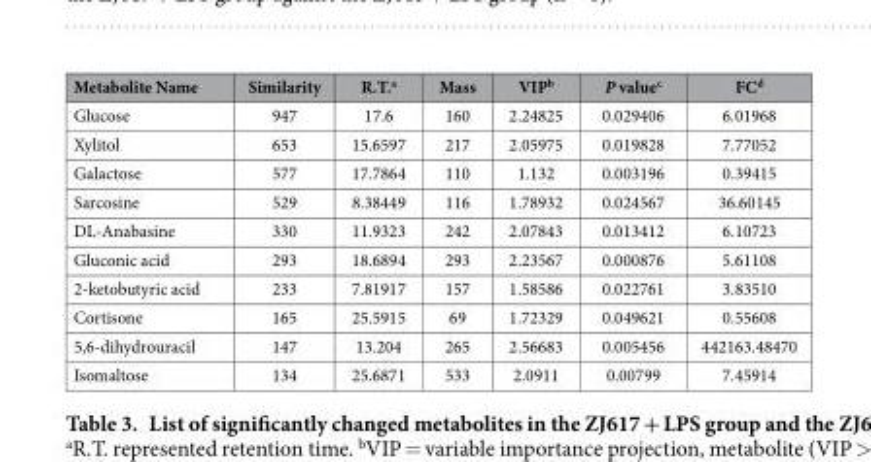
<table><thead><tr><td>Metabolite Name</td><td>Similarity</td><td>R.T.<sup>a</sup></td><td>Mass</td><td>VIP<sup>b</sup></td><td>P value<sup>c</sup></td><td>FC<sup>d</sup></td></tr></thead><tbody><tr><td>Glucose</td><td>947</td><td>17.6</td><td>160</td><td>2.24825</td><td>0.029406</td><td>6.01968</td></tr><tr><td>Xylitol</td><td>653</td><td>15.6597</td><td>217</td><td>2.05975</td><td>0.019828</td><td>7.77052</td></tr><tr><td>Galactose</td><td>577</td><td>17.7864</td><td>110</td><td>1.132</td><td>0.003196</td><td>0.39415</td></tr><tr><td>Sarcosine</td><td>529</td><td>8.38449</td><td>116</td><td>1.78932</td><td>0.024567</td><td>36.60145</td></tr><tr><td>DL-Anabasine</td><td>330</td><td>11.9323</td><td>242</td><td>2.07843</td><td>0.013412</td><td>6.10723</td></tr><tr><td>Gluconic acid</td><td>293</td><td>18.6894</td><td>293</td><td>2.23567</td><td>0.000876</td><td>5.61108</td></tr><tr><td>2-ketobutyric acid</td><td>233</td><td>7.81917</td><td>157</td><td>1.58586</td><td>0.022761</td><td>3.83510</td></tr><tr><td>Cortisone</td><td>165</td><td>25.5915</td><td>69</td><td>1.72329</td><td>0.049621</td><td>0.55608</td></tr><tr><td>5,6-dihydrouracil</td><td>147</td><td>13.204</td><td>265</td><td>2.56683</td><td>0.005456</td><td>442163.48470</td></tr><tr><td>Isomaltose</td><td>134</td><td>25.6871</td><td>533</td><td>2.0911</td><td>0.00799</td><td>7.45914</td></tr></tbody></table>